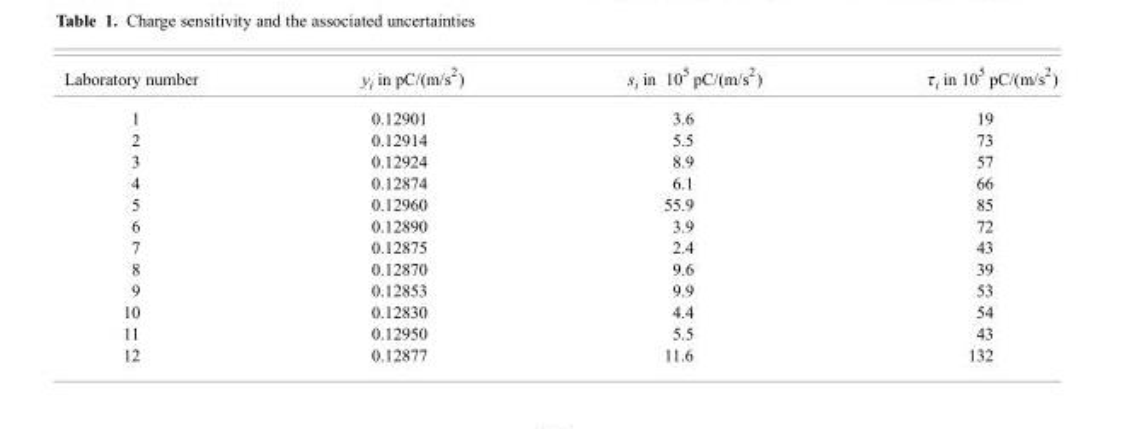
<table><thead><tr><td>Laboratory number</td><td>y<sub>i</sub> in pC/(m/s<sup>2</sup>)</td><td>s<sub>i</sub> in 10<sup>5</sup> pC/(m/s<sup>2</sup>)</td><td>τ<sub>i</sub> in 10<sup>5</sup> pC/(m/s<sup>2</sup>)</td></tr></thead><tbody><tr><td>1</td><td>0.12901</td><td>3.6</td><td>19</td></tr><tr><td>2</td><td>0.12914</td><td>5.5</td><td>73</td></tr><tr><td>3</td><td>0.12924</td><td>8.9</td><td>57</td></tr><tr><td>4</td><td>0.12874</td><td>6.1</td><td>66</td></tr><tr><td>5</td><td>0.12960</td><td>55.9</td><td>85</td></tr><tr><td>6</td><td>0.12890</td><td>3.9</td><td>72</td></tr><tr><td>7</td><td>0.12875</td><td>2.4</td><td>43</td></tr><tr><td>8</td><td>0.12870</td><td>9.6</td><td>39</td></tr><tr><td>9</td><td>0.12853</td><td>9.9</td><td>53</td></tr><tr><td>10</td><td>0.12830</td><td>4.4</td><td>54</td></tr><tr><td>11</td><td>0.12950</td><td>5.5</td><td>43</td></tr><tr><td>12</td><td>0.12877</td><td>11.6</td><td>132</td></tr></tbody></table>